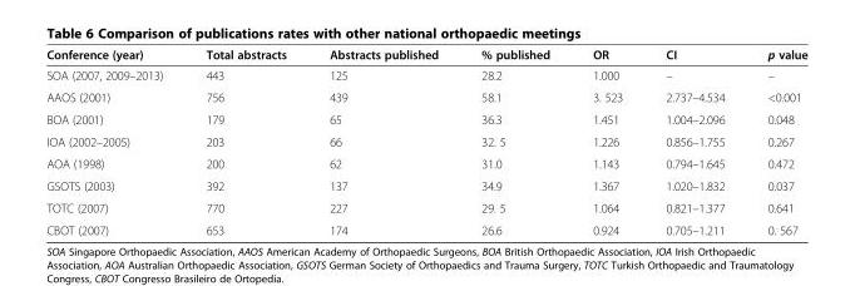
<table><thead><tr><td>Conference (year)</td><td>Total abstracts</td><td>Abstracts published</td><td>% published</td><td>OR</td><td>CI</td><td>p value</td></tr></thead><tbody><tr><td>SOA (2007, 2009–2013)</td><td>443</td><td>125</td><td>28.2</td><td>1.000</td><td>–</td><td>–</td></tr><tr><td>AAOS (2001)</td><td>756</td><td>439</td><td>58.1</td><td>3. 523</td><td>2.737–4.534</td><td>&lt;0.001</td></tr><tr><td>BOA (2001)</td><td>179</td><td>65</td><td>36.3</td><td>1.451</td><td>1.004–2.096</td><td>0.048</td></tr><tr><td>IOA (2002–2005)</td><td>203</td><td>66</td><td>32. 5</td><td>1.226</td><td>0.856–1.755</td><td>0.267</td></tr><tr><td>AOA (1998)</td><td>200</td><td>62</td><td>31.0</td><td>1.143</td><td>0.794–1.645</td><td>0.472</td></tr><tr><td>GSOTS (2003)</td><td>392</td><td>137</td><td>34.9</td><td>1.367</td><td>1.020–1.832</td><td>0.037</td></tr><tr><td>TOTC (2007)</td><td>770</td><td>227</td><td>29. 5</td><td>1.064</td><td>0.821–1.377</td><td>0.641</td></tr><tr><td>CBOT (2007)</td><td>653</td><td>174</td><td>26.6</td><td>0.924</td><td>0.705–1.211</td><td>0. 567</td></tr></tbody></table>